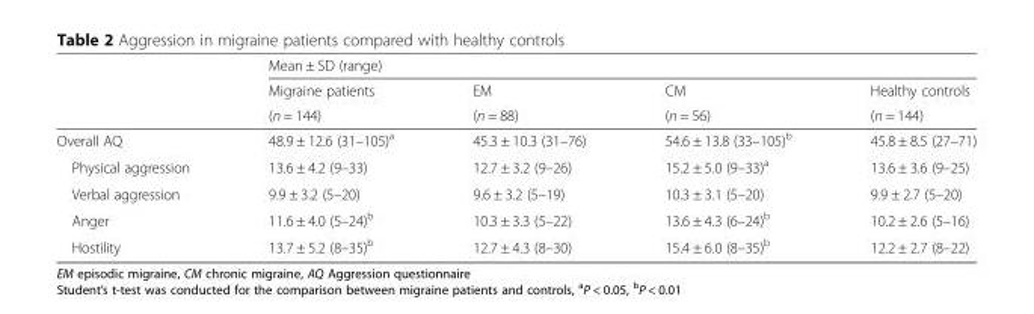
<table><thead><tr><td rowspan="3"></td><td colspan="4">Mean ± SD (range)</td></tr><tr><td rowspan="2">Migraine patients (n = 144)</td><td rowspan="2">EM (n = 88)</td><td rowspan="2">CM (n = 56)</td><td rowspan="2">Healthy controls (n = 144)</td></tr><tr></tr></thead><tbody><tr><td>Overall AQ</td><td>48.9 ± 12.6 (31–105)<sup>a</sup></td><td>45.3 ± 10.3 (31–76)</td><td>54.6 ± 13.8 (33–105)<sup>b</sup></td><td>45.8 ± 8.5 (27–71)</td></tr><tr><td>Physical aggression</td><td>13.6 ± 4.2 (9–33)</td><td>12.7 ± 3.2 (9–26)</td><td>15.2 ± 5.0 (9–33)<sup>a</sup></td><td>13.6 ± 3.6 (9–25)</td></tr><tr><td>Verbal aggression</td><td>9.9 ± 3.2 (5–20)</td><td>9.6 ± 3.2 (5–19)</td><td>10.3 ± 3.1 (5–20)</td><td>9.9 ± 2.7 (5–20)</td></tr><tr><td>Anger</td><td>11.6 ± 4.0 (5–24)<sup>b</sup></td><td>10.3 ± 3.3 (5–22)</td><td>13.6 ± 4.3 (6–24)<sup>b</sup></td><td>10.2 ± 2.6 (5–16)</td></tr><tr><td>Hostility</td><td>13.7 ± 5.2 (8–35)<sup>b</sup></td><td>12.7 ± 4.3 (8–30)</td><td>15.4 ± 6.0 (8–35)<sup>b</sup></td><td>12.2 ± 2.7 (8–22)</td></tr></tbody></table>